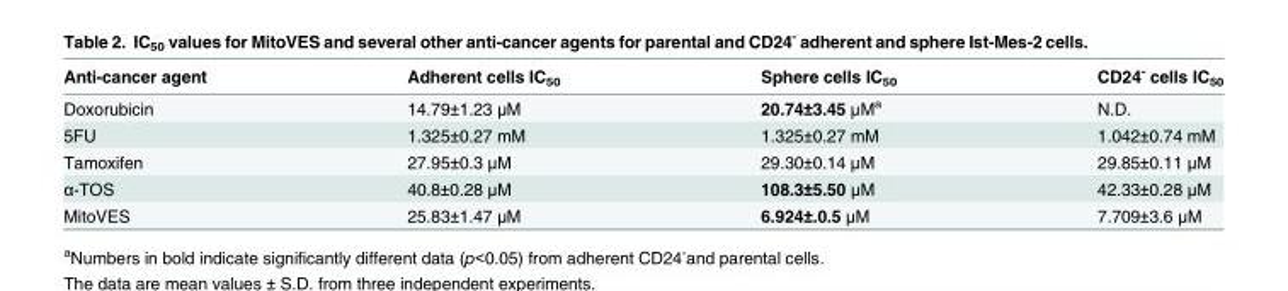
<table><thead><tr><td>Anti-cancer agent</td><td>Adherent cells IC<sub>50</sub></td><td>Sphere cells IC<sub>50</sub></td><td>CD24<sup>-</sup> cells IC<sub>50</sub></td></tr></thead><tbody><tr><td>Doxorubicin</td><td>14.79±1.23 μM</td><td>20.74±3.45 μM<sup>a</sup></td><td>N.D.</td></tr><tr><td>5FU</td><td>1.325±0.27 mM</td><td>1.325±0.27 mM</td><td>1.042±0.74 mM</td></tr><tr><td>Tamoxifen</td><td>27.95±0.3 μM</td><td>29.30±0.14 μM</td><td>29.85±0.11 μM</td></tr><tr><td>α-TOS</td><td>40.8±0.28 μM</td><td>108.3±5.50 μM</td><td>42.33±0.28 μM</td></tr><tr><td>MitoVES</td><td>25.83±1.47 μM</td><td>6.924±.0.5 μM</td><td>7.709±3.6 μM</td></tr></tbody></table>